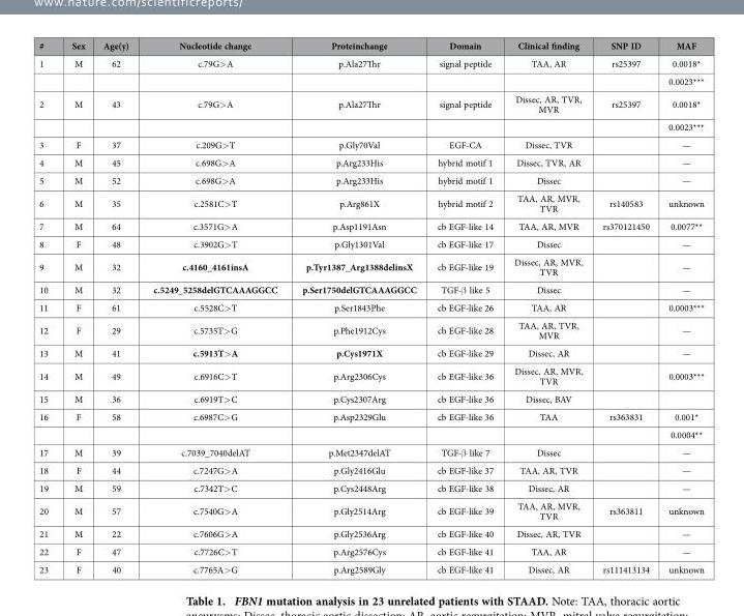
<table><thead><tr><td>#</td><td>Sex</td><td>Age(y)</td><td>Nucleotide change</td><td>Proteinchange</td><td>Domain</td><td>Clinical finding</td><td>SNP ID</td><td>MAF</td></tr></thead><tbody><tr><td rowspan="2">1</td><td>M</td><td>62</td><td>c.79G&gt; A</td><td>p.Ala27Thr</td><td>signal peptide</td><td>TAA, AR</td><td>rs25397</td><td>0.0018*</td></tr><tr><td></td><td></td><td></td><td></td><td></td><td></td><td></td><td>0.0023***</td></tr><tr><td rowspan="2">2</td><td>M</td><td>43</td><td>c.79G&gt; A</td><td>p.Ala27Thr</td><td>signal peptide</td><td>Dissec, AR, TVR, MVR</td><td>rs25397</td><td>0.0018*</td></tr><tr><td></td><td></td><td></td><td></td><td></td><td></td><td></td><td>0.0023***</td></tr><tr><td>3</td><td>F</td><td>37</td><td>c.209G&gt; T</td><td>p.Gly70Val</td><td>EGF-CA</td><td>Dissec, TVR</td><td></td><td>—</td></tr><tr><td>4</td><td>M</td><td>45</td><td>c.698G&gt; A</td><td>p.Arg233His</td><td>hybrid motif 1</td><td>Dissec, TVR, AR</td><td></td><td>—</td></tr><tr><td>5</td><td>M</td><td>52</td><td>c.698G&gt; A</td><td>p.Arg233His</td><td>hybrid motif 1</td><td>Dissec</td><td></td><td>—</td></tr><tr><td>6</td><td>M</td><td>35</td><td>c.2581C&gt; T</td><td>p.Arg861X</td><td>hybrid motif 2</td><td>TAA, AR, MVR, TVR</td><td>rs140583</td><td>unknown</td></tr><tr><td>7</td><td>M</td><td>64</td><td>c.3571G&gt; A</td><td>p.Asp1191Asn</td><td>cb EGF-like 14</td><td>TAA, AR, MVR</td><td>rs370121450</td><td>0.0077**</td></tr><tr><td>8</td><td>F</td><td>48</td><td>c.3902G&gt; T</td><td>p.Gly1301Val</td><td>cb EGF-like 17</td><td>Dissec</td><td></td><td>—</td></tr><tr><td>9</td><td>M</td><td>32</td><td>c.4160_4161insA</td><td>p.Tyr1387_Arg1388delinsX</td><td>cb EGF-like 19</td><td>Dissec, AR, MVR, TVR</td><td></td><td>—</td></tr><tr><td>10</td><td>M</td><td>32</td><td>c.5249_5258delGTCAAAGGCC</td><td>p.Ser1750delGTCAAAGGCC</td><td>TGF-β like 5</td><td>Dissec</td><td></td><td>—</td></tr><tr><td>11</td><td>F</td><td>61</td><td>c.5528C&gt; T</td><td>p.Ser1843Phe</td><td>cb EGF-like 26</td><td>TAA, AR</td><td></td><td>0.0003***</td></tr><tr><td>12</td><td>F</td><td>29</td><td>c.5735T&gt; G</td><td>p.Phe1912Cys</td><td>cb EGF-like 28</td><td>TAA, AR, TVR, MVR</td><td></td><td>—</td></tr><tr><td>13</td><td>M</td><td>41</td><td>c.5913T&gt; A</td><td>p.Cys1971X</td><td>cb EGF-like 29</td><td>Dissec, AR</td><td></td><td>—</td></tr><tr><td>14</td><td>M</td><td>49</td><td>c.6916C&gt; T</td><td>p.Arg2306Cys</td><td>cb EGF-like 36</td><td>Dissec, AR, MVR, TVR</td><td></td><td>0.0003***</td></tr><tr><td>15</td><td>M</td><td>36</td><td>c.6919T&gt; C</td><td>p.Cys2307Arg</td><td>cb EGF-like 36</td><td>Dissec, BAV</td><td></td><td></td></tr><tr><td rowspan="2">16</td><td>F</td><td>58</td><td>c.6987C&gt; G</td><td>p.Asp2329Glu</td><td>cb EGF-like 36</td><td>TAA</td><td>rs363831</td><td>0.001*</td></tr><tr><td></td><td></td><td></td><td></td><td></td><td></td><td></td><td>0.0004**</td></tr><tr><td>17</td><td>M</td><td>39</td><td>c.7039_7040delAT</td><td>p.Met2347delAT</td><td>TGF-β like 7</td><td>Dissec</td><td></td><td>—</td></tr><tr><td>18</td><td>F</td><td>44</td><td>c.7247G&gt; A</td><td>p.Gly2416Glu</td><td>cb EGF-like 37</td><td>TAA, AR, TVR</td><td></td><td>—</td></tr><tr><td>19</td><td>M</td><td>59</td><td>c.7342T&gt; C</td><td>p.Cys2448Arg</td><td>cb EGF-like 38</td><td>Dissec, AR</td><td></td><td>—</td></tr><tr><td>20</td><td>M</td><td>57</td><td>c.7540G&gt; A</td><td>p.Gly2514Arg</td><td>cb EGF-like 39</td><td>TAA, AR, MVR, TVR</td><td>rs363811</td><td>unknown</td></tr><tr><td>21</td><td>M</td><td>22</td><td>c.7606G&gt; A</td><td>p.Gly2536Arg</td><td>cb EGF-like 40</td><td>Dissec, AR, TVR</td><td></td><td>—</td></tr><tr><td>22</td><td>F</td><td>47</td><td>c.7726C&gt; T</td><td>p.Arg2576Cys</td><td>cb EGF-like 41</td><td>TAA, AR</td><td></td><td>—</td></tr><tr><td>23</td><td>F</td><td>40</td><td>c.7765A&gt; G</td><td>p.Arg2589Gly</td><td>cb EGF-like 41</td><td>Dissec, AR</td><td>rs111413134</td><td>unknown</td></tr></tbody></table>